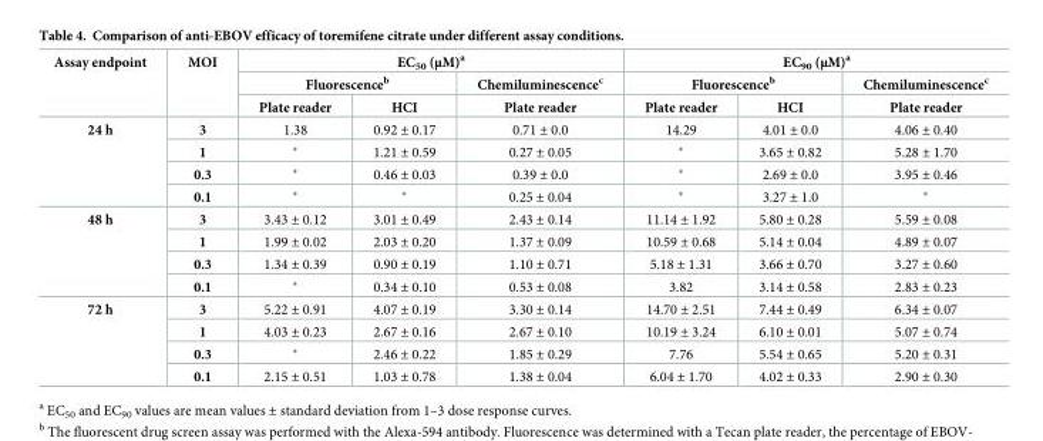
<table><thead><tr><td rowspan="3">Assay endpoint</td><td rowspan="3">MOI</td><td colspan="3">EC<sub>50</sub> (μM)<sup>a</sup></td><td colspan="3">EC<sub>90</sub> (μM)<sup>a</sup></td></tr><tr><td colspan="2">Fluorescence<sup>b</sup></td><td rowspan="2">Chemiluminescence<sup>c</sup> Plate reader</td><td colspan="2">Fluorescence<sup>b</sup></td><td rowspan="2">Chemiluminescence<sup>c</sup> Plate reader</td></tr><tr><td>Plate reader</td><td>HCI</td><td>Plate reader</td><td>HCI</td></tr></thead><tbody><tr><td rowspan="4">24 h</td><td>3</td><td>1.38</td><td>0.92 ± 0.17</td><td>0.71 ± 0.0</td><td>14.29</td><td>4.01 ± 0.0</td><td>4.06 ± 0.40</td></tr><tr><td>1</td><td>*</td><td>1.21 ± 0.59</td><td>0.27 ± 0.05</td><td>*</td><td>3.65 ± 0.82</td><td>5.28 ± 1.70</td></tr><tr><td>0.3</td><td>*</td><td>0.46 ± 0.03</td><td>0.39 ± 0.0</td><td>*</td><td>2.69 ± 0.0</td><td>3.95 ± 0.46</td></tr><tr><td>0.1</td><td>*</td><td>*</td><td>0.25 ± 0.04</td><td>*</td><td>3.27 ± 1.0</td><td>*</td></tr><tr><td rowspan="4">48 h</td><td>3</td><td>3.43 ± 0.12</td><td>3.01 ± 0.49</td><td>2.43 ± 0.14</td><td>11.14 ± 1.92</td><td>5.80 ± 0.28</td><td>5.59 ± 0.08</td></tr><tr><td>1</td><td>1.99 ± 0.02</td><td>2.03 ± 0.20</td><td>1.37 ± 0.09</td><td>10.59 ± 0.68</td><td>5.14 ± 0.04</td><td>4.89 ± 0.07</td></tr><tr><td>0.3</td><td>1.34 ± 0.39</td><td>0.90 ± 0.19</td><td>1.10 ± 0.71</td><td>5.18 ± 1.31</td><td>3.66 ± 0.70</td><td>3.27 ± 0.60</td></tr><tr><td>0.1</td><td>*</td><td>0.34 ± 0.10</td><td>0.53 ± 0.08</td><td>3.82</td><td>3.14 ± 0.58</td><td>2.83 ± 0.23</td></tr><tr><td rowspan="4">72 h</td><td>3</td><td>5.22 ± 0.91</td><td>4.07 ± 0.19</td><td>3.30 ± 0.14</td><td>14.70 ± 2.51</td><td>7.44 ± 0.49</td><td>6.34 ± 0.07</td></tr><tr><td>1</td><td>4.03 ± 0.23</td><td>2.67 ± 0.16</td><td>2.67 ± 0.10</td><td>10.19 ± 3.24</td><td>6.10 ± 0.01</td><td>5.07 ± 0.74</td></tr><tr><td>0.3</td><td>*</td><td>2.46 ± 0.22</td><td>1.85 ± 0.29</td><td>7.76</td><td>5.54 ± 0.65</td><td>5.20 ± 0.31</td></tr><tr><td>0.1</td><td>2.15 ± 0.51</td><td>1.03 ± 0.78</td><td>1.38 ± 0.04</td><td>6.04 ± 1.70</td><td>4.02 ± 0.33</td><td>2.90 ± 0.30</td></tr></tbody></table>